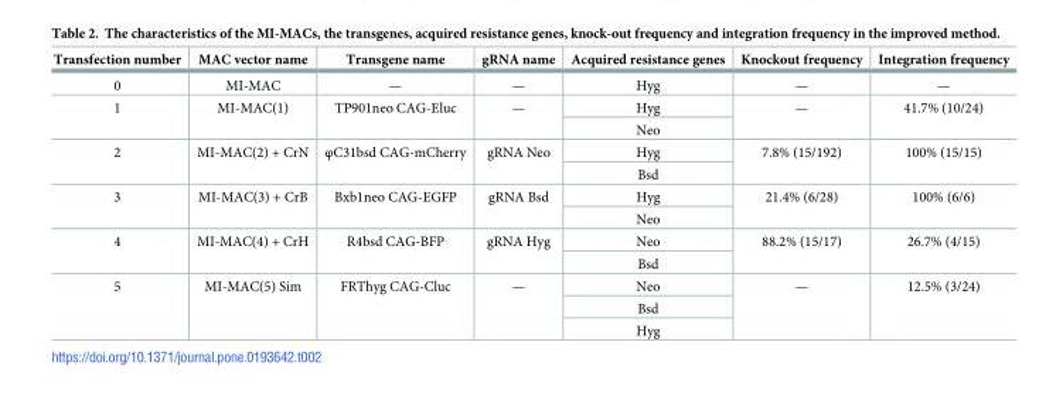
<table><thead><tr><td>Transfection number</td><td>MAC vector name</td><td>Transgene name</td><td>gRNA name</td><td>Acquired resistance genes</td><td>Knockout frequency</td><td>Integration frequency</td></tr></thead><tbody><tr><td>0</td><td>MI-MAC</td><td>—</td><td>—</td><td>Hyg</td><td>—</td><td>—</td></tr><tr><td rowspan="2">1</td><td rowspan="2">MI-MAC(1)</td><td rowspan="2">TP901neo CAG-Eluc</td><td rowspan="2">—</td><td>Hyg</td><td rowspan="2">—</td><td rowspan="2">41.7% (10/24)</td></tr><tr><td>Neo</td></tr><tr><td rowspan="2">2</td><td rowspan="2">MI-MAC(2) + CrN</td><td rowspan="2">φC31bsd CAG-mCherry</td><td rowspan="2">gRNA Neo</td><td>Hyg</td><td rowspan="2">7.8% (15/192)</td><td rowspan="2">100% (15/15)</td></tr><tr><td>Bsd</td></tr><tr><td rowspan="2">3</td><td rowspan="2">MI-MAC(3) + CrB</td><td rowspan="2">Bxb1neo CAG-EGFP</td><td rowspan="2">gRNA Bsd</td><td>Hyg</td><td rowspan="2">21.4% (6/28)</td><td rowspan="2">100% (6/6)</td></tr><tr><td>Neo</td></tr><tr><td rowspan="2">4</td><td rowspan="2">MI-MAC(4) + CrH</td><td rowspan="2">R4bsd CAG-BFP</td><td rowspan="2">gRNA Hyg</td><td>Neo</td><td rowspan="2">88.2% (15/17)</td><td rowspan="2">26.7% (4/15)</td></tr><tr><td>Bsd</td></tr><tr><td rowspan="3">5</td><td rowspan="3">MI-MAC(5) Sim</td><td rowspan="3">FRThyg CAG-Cluc</td><td rowspan="3">—</td><td>Neo</td><td rowspan="3">—</td><td rowspan="3">12.5% (3/24)</td></tr><tr><td>Bsd</td></tr><tr><td>Hyg</td></tr></tbody></table>